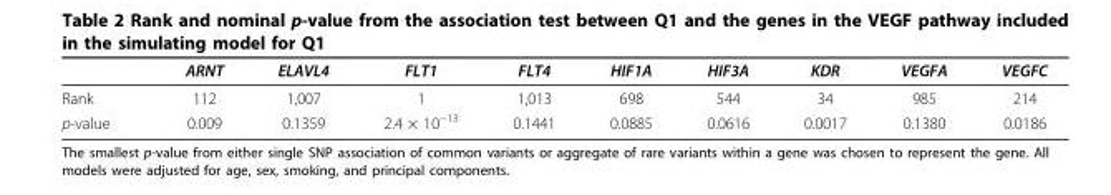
<table><thead><tr><td></td><td>ARNT</td><td>ELAVL4</td><td>FLT1</td><td>FLT4</td><td>HIF1A</td><td>HIF3A</td><td>KDR</td><td>VEGFA</td><td>VEGFC</td></tr></thead><tbody><tr><td>Rank</td><td>112</td><td>1,007</td><td>1</td><td>1,013</td><td>698</td><td>544</td><td>34</td><td>985</td><td>214</td></tr><tr><td>p-value</td><td>0.009</td><td>0.1359</td><td>2.4 × 10<sup>−13</sup></td><td>0.1441</td><td>0.0885</td><td>0.0616</td><td>0.0017</td><td>0.1380</td><td>0.0186</td></tr></tbody></table>